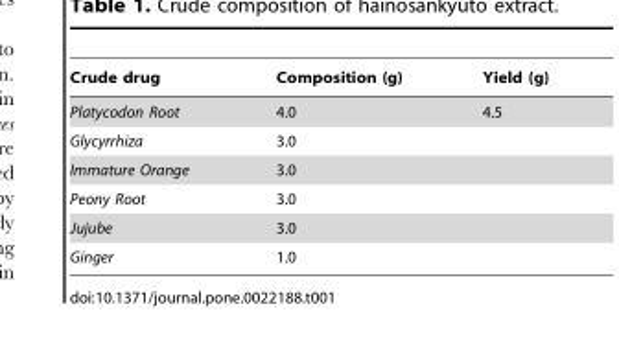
<table><thead><tr><td>Crude drug</td><td>Composition (g)</td><td>Yield (g)</td></tr></thead><tbody><tr><td>Platycodon Root</td><td>4.0</td><td>4.5</td></tr><tr><td>Glycyrrhiza</td><td>3.0</td><td></td></tr><tr><td>Immature Orange</td><td>3.0</td><td></td></tr><tr><td>Peony Root</td><td>3.0</td><td></td></tr><tr><td>Jujube</td><td>3.0</td><td></td></tr><tr><td>Ginger</td><td>1.0</td><td></td></tr></tbody></table>